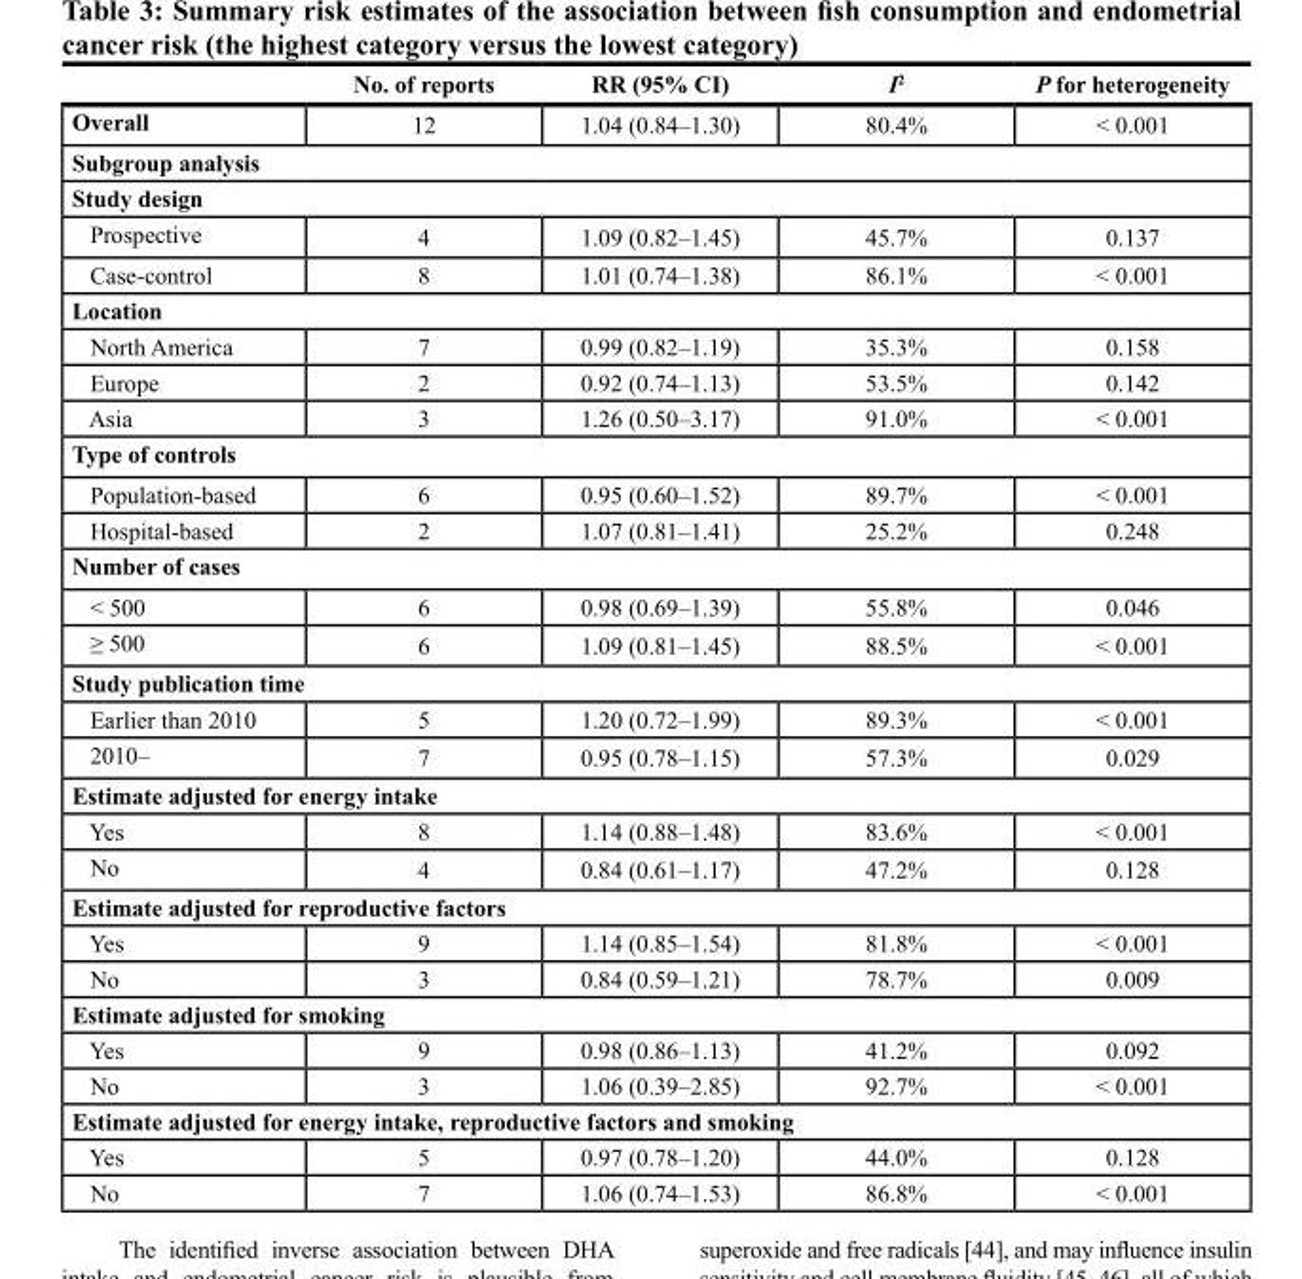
<table><thead><tr><td></td><td>No. of reports</td><td>RR (95% CI)</td><td>I<sup>2</sup></td><td>P for heterogeneity</td></tr></thead><tbody><tr><td>Overall</td><td>12</td><td>1.04 (0.84–1.30)</td><td>80.4%</td><td>&lt; 0.001</td></tr><tr><td colspan="5">Subgroup analysis</td></tr><tr><td colspan="5">Study design</td></tr><tr><td>Prospective</td><td>4</td><td>1.09 (0.82–1.45)</td><td>45.7%</td><td>0.137</td></tr><tr><td>Case-control</td><td>8</td><td>1.01 (0.74–1.38)</td><td>86.1%</td><td>&lt; 0.001</td></tr><tr><td colspan="5">Location</td></tr><tr><td>North America</td><td>7</td><td>0.99 (0.82–1.19)</td><td>35.3%</td><td>0.158</td></tr><tr><td>Europe</td><td>2</td><td>0.92 (0.74–1.13)</td><td>53.5%</td><td>0.142</td></tr><tr><td>Asia</td><td>3</td><td>1.26 (0.50–3.17)</td><td>91.0%</td><td>&lt; 0.001</td></tr><tr><td colspan="5">Type of controls</td></tr><tr><td>Population-based</td><td>6</td><td>0.95 (0.60–1.52)</td><td>89.7%</td><td>&lt; 0.001</td></tr><tr><td>Hospital-based</td><td>2</td><td>1.07 (0.81–1.41)</td><td>25.2%</td><td>0.248</td></tr><tr><td colspan="5">Number of cases</td></tr><tr><td>&lt; 500</td><td>6</td><td>0.98 (0.69–1.39)</td><td>55.8%</td><td>0.046</td></tr><tr><td>≥ 500</td><td>6</td><td>1.09 (0.81–1.45)</td><td>88.5%</td><td>&lt; 0.001</td></tr><tr><td colspan="5">Study publication time</td></tr><tr><td>Earlier than 2010</td><td>5</td><td>1.20 (0.72–1.99)</td><td>89.3%</td><td>&lt; 0.001</td></tr><tr><td>2010–</td><td>7</td><td>0.95 (0.78–1.15)</td><td>57.3%</td><td>0.029</td></tr><tr><td colspan="5">Estimate adjusted for energy intake</td></tr><tr><td>Yes</td><td>8</td><td>1.14 (0.88–1.48)</td><td>83.6%</td><td>&lt; 0.001</td></tr><tr><td>No</td><td>4</td><td>0.84 (0.61–1.17)</td><td>47.2%</td><td>0.128</td></tr><tr><td colspan="5">Estimate adjusted for reproductive factors</td></tr><tr><td>Yes</td><td>9</td><td>1.14 (0.85–1.54)</td><td>81.8%</td><td>&lt; 0.001</td></tr><tr><td>No</td><td>3</td><td>0.84 (0.59–1.21)</td><td>78.7%</td><td>0.009</td></tr><tr><td colspan="5">Estimate adjusted for smoking</td></tr><tr><td>Yes</td><td>9</td><td>0.98 (0.86–1.13)</td><td>41.2%</td><td>0.092</td></tr><tr><td>No</td><td>3</td><td>1.06 (0.39–2.85)</td><td>92.7%</td><td>&lt; 0.001</td></tr><tr><td colspan="5">Estimate adjusted for energy intake, reproductive factors and smoking</td></tr><tr><td>Yes</td><td>5</td><td>0.97 (0.78–1.20)</td><td>44.0%</td><td>0.128</td></tr><tr><td>No</td><td>7</td><td>1.06 (0.74–1.53)</td><td>86.8%</td><td>&lt; 0.001</td></tr></tbody></table>